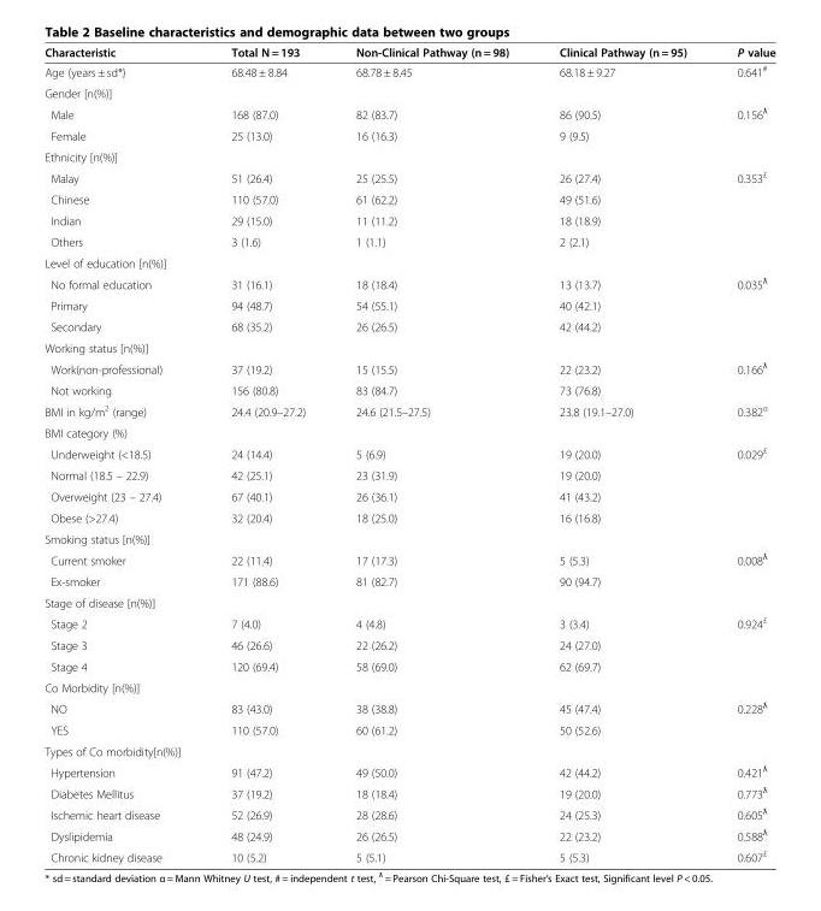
<table><thead><tr><td>Characteristic</td><td>Total N = 193</td><td>Non-Clinical Pathway (n = 98)</td><td>Clinical Pathway (n = 95)</td><td>P value</td></tr></thead><tbody><tr><td>Age (years ± sd*)</td><td>68.48 ± 8.84</td><td>68.78 ± 8.45</td><td>68.18 ± 9.27</td><td>0.641<sup>#</sup></td></tr><tr><td colspan="5">Gender [n(%)]</td></tr><tr><td>Male</td><td>168 (87.0)</td><td>82 (83.7)</td><td>86 (90.5)</td><td>0.156<sup>ƛ</sup></td></tr><tr><td>Female</td><td>25 (13.0)</td><td>16 (16.3)</td><td>9 (9.5)</td><td></td></tr><tr><td colspan="5">Ethnicity [n(%)]</td></tr><tr><td>Malay</td><td>51 (26.4)</td><td>25 (25.5)</td><td>26 (27.4)</td><td>0.353<sup>£</sup></td></tr><tr><td>Chinese</td><td>110 (57.0)</td><td>61 (62.2)</td><td>49 (51.6)</td><td></td></tr><tr><td>Indian</td><td>29 (15.0)</td><td>11 (11.2)</td><td>18 (18.9)</td><td></td></tr><tr><td>Others</td><td>3 (1.6)</td><td>1 (1.1)</td><td>2 (2.1)</td><td></td></tr><tr><td colspan="5">Level of education [n(%)]</td></tr><tr><td>No formal education</td><td>31 (16.1)</td><td>18 (18.4)</td><td>13 (13.7)</td><td>0.035<sup>ƛ</sup></td></tr><tr><td>Primary</td><td>94 (48.7)</td><td>54 (55.1)</td><td>40 (42.1)</td><td></td></tr><tr><td>Secondary</td><td>68 (35.2)</td><td>26 (26.5)</td><td>42 (44.2)</td><td></td></tr><tr><td colspan="5">Working status [n(%)]</td></tr><tr><td>Work(non-professional)</td><td>37 (19.2)</td><td>15 (15.5)</td><td>22 (23.2)</td><td>0.166<sup>ƛ</sup></td></tr><tr><td>Not working</td><td>156 (80.8)</td><td>83 (84.7)</td><td>73 (76.8)</td><td></td></tr><tr><td>BMI in kg/m<sup>2</sup> (range)</td><td>24.4 (20.9–27.2)</td><td>24.6 (21.5–27.5)</td><td>23.8 (19.1–27.0)</td><td>0.382<sup>α</sup></td></tr><tr><td colspan="5">BMI category (%)</td></tr><tr><td>Underweight (&lt;18.5)</td><td>24 (14.4)</td><td>5 (6.9)</td><td>19 (20.0)</td><td>0.029<sup>£</sup></td></tr><tr><td>Normal (18.5 – 22.9)</td><td>42 (25.1)</td><td>23 (31.9)</td><td>19 (20.0)</td><td></td></tr><tr><td>Overweight (23 – 27.4)</td><td>67 (40.1)</td><td>26 (36.1)</td><td>41 (43.2)</td><td></td></tr><tr><td>Obese (&gt;27.4)</td><td>32 (20.4)</td><td>18 (25.0)</td><td>16 (16.8)</td><td></td></tr><tr><td colspan="5">Smoking status [n(%)]</td></tr><tr><td>Current smoker</td><td>22 (11.4)</td><td>17 (17.3)</td><td>5 (5.3)</td><td>0.008<sup>ƛ</sup></td></tr><tr><td>Ex-smoker</td><td>171 (88.6)</td><td>81 (82.7)</td><td>90 (94.7)</td><td></td></tr><tr><td colspan="5">Stage of disease [n(%)]</td></tr><tr><td>Stage 2</td><td>7 (4.0)</td><td>4 (4.8)</td><td>3 (3.4)</td><td>0.924<sup>£</sup></td></tr><tr><td>Stage 3</td><td>46 (26.6)</td><td>22 (26.2)</td><td>24 (27.0)</td><td></td></tr><tr><td>Stage 4</td><td>120 (69.4)</td><td>58 (69.0)</td><td>62 (69.7)</td><td></td></tr><tr><td colspan="5">Co Morbidity [n(%)]</td></tr><tr><td>NO</td><td>83 (43.0)</td><td>38 (38.8)</td><td>45 (47.4)</td><td>0.228<sup>ƛ</sup></td></tr><tr><td>YES</td><td>110 (57.0)</td><td>60 (61.2)</td><td>50 (52.6)</td><td></td></tr><tr><td colspan="5">Types of Co morbidity[n(%)]</td></tr><tr><td>Hypertension</td><td>91 (47.2)</td><td>49 (50.0)</td><td>42 (44.2)</td><td>0.421<sup>ƛ</sup></td></tr><tr><td>Diabetes Mellitus</td><td>37 (19.2)</td><td>18 (18.4)</td><td>19 (20.0)</td><td>0.773<sup>ƛ</sup></td></tr><tr><td>Ischemic heart disease</td><td>52 (26.9)</td><td>28 (28.6)</td><td>24 (25.3)</td><td>0.605<sup>ƛ</sup></td></tr><tr><td>Dyslipidemia</td><td>48 (24.9)</td><td>26 (26.5)</td><td>22 (23.2)</td><td>0.588<sup>ƛ</sup></td></tr><tr><td>Chronic kidney disease</td><td>10 (5.2)</td><td>5 (5.1)</td><td>5 (5.3)</td><td>0.607<sup>£</sup></td></tr></tbody></table>